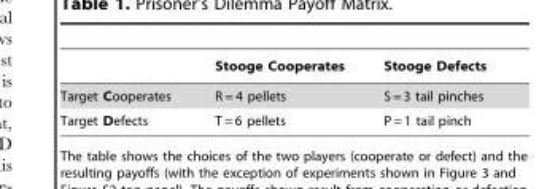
<table><thead><tr><td></td><td>Stooge Cooperates</td><td>Stooge Defects</td></tr></thead><tbody><tr><td>Target Cooperates</td><td>R = 4 pellets</td><td>S = 3 tail pinches</td></tr><tr><td>Target Defects</td><td>T = 6 pellets</td><td>P = 1 tail pinch</td></tr></tbody></table>